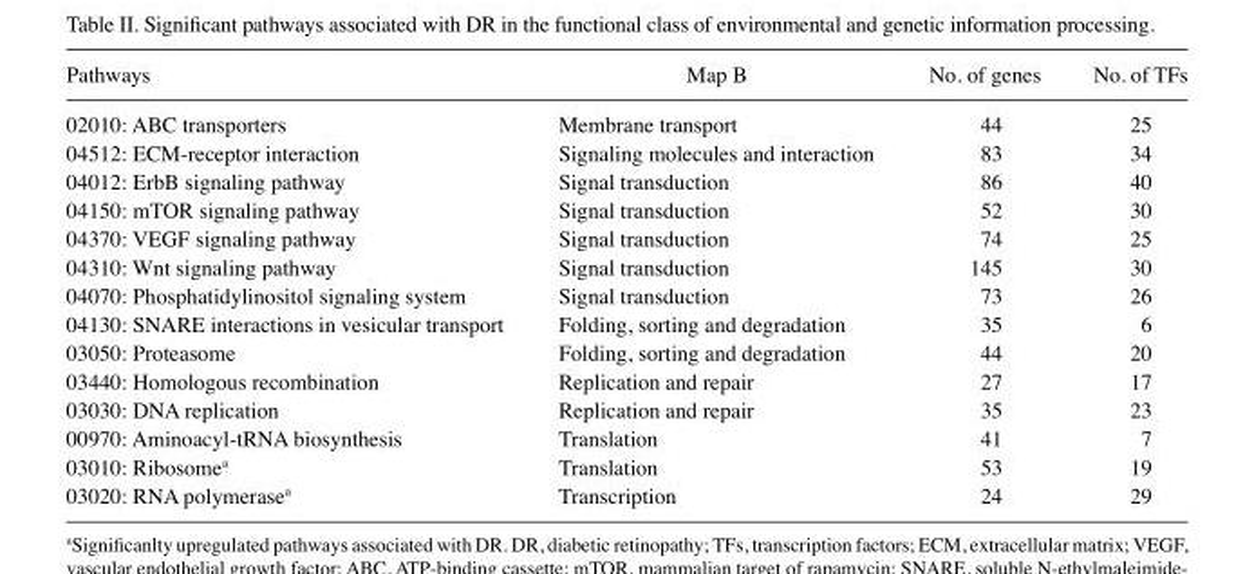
<table><thead><tr><td>Pathways</td><td>Map B</td><td>No. of genes</td><td>No. of TFs</td></tr></thead><tbody><tr><td>02010: ABC transporters</td><td>Membrane transport</td><td>44</td><td>25</td></tr><tr><td>04512: ECM-receptor interaction</td><td>Signaling molecules and interaction</td><td>83</td><td>34</td></tr><tr><td>04012: ErbB signaling pathway</td><td>Signal transduction</td><td>86</td><td>40</td></tr><tr><td>04150: mTOR signaling pathway</td><td>Signal transduction</td><td>52</td><td>30</td></tr><tr><td>04370: VEGF signaling pathway</td><td>Signal transduction</td><td>74</td><td>25</td></tr><tr><td>04310: Wnt signaling pathway</td><td>Signal transduction</td><td>145</td><td>30</td></tr><tr><td>04070: Phosphatidylinositol signaling system</td><td>Signal transduction</td><td>73</td><td>26</td></tr><tr><td>04130: SNARE interactions in vesicular transport</td><td>Folding, sorting and degradation</td><td>35</td><td>6</td></tr><tr><td>03050: Proteasome</td><td>Folding, sorting and degradation</td><td>44</td><td>20</td></tr><tr><td>03440: Homologous recombination</td><td>Replication and repair</td><td>27</td><td>17</td></tr><tr><td>03030: DNA replication</td><td>Replication and repair</td><td>35</td><td>23</td></tr><tr><td>00970: Aminoacyl-tRNA biosynthesis</td><td>Translation</td><td>41</td><td>7</td></tr><tr><td>03010: Ribosome<sup>a</sup></td><td>Translation</td><td>53</td><td>19</td></tr><tr><td>03020: RNA polymerase<sup>a</sup></td><td>Transcription</td><td>24</td><td>29</td></tr></tbody></table>